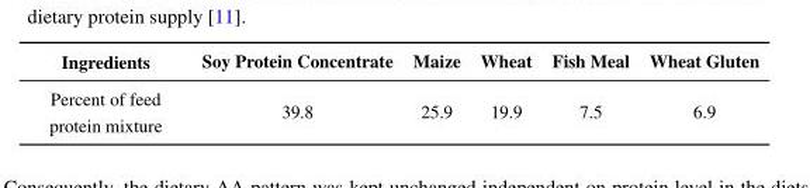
<table><thead><tr><td>Ingredients</td><td>Soy Protein Concentrate</td><td>Maize</td><td>Wheat</td><td>Fish Meal</td><td>Wheat Gluten</td></tr></thead><tbody><tr><td>Percent of feed protein mixture</td><td>39.8</td><td>25.9</td><td>19.9</td><td>7.5</td><td>6.9</td></tr></tbody></table>